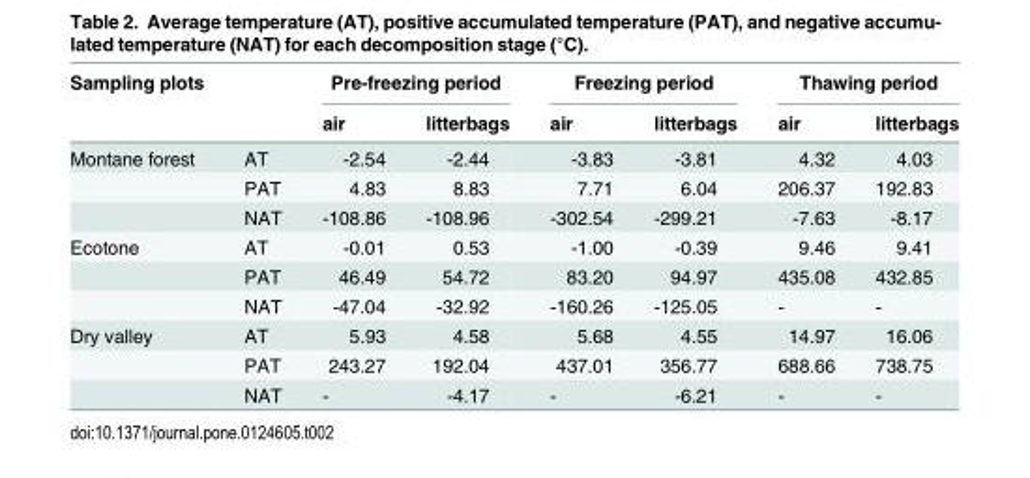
<table><thead><tr><td rowspan="2">Sampling plots</td><td rowspan="2"></td><td colspan="2">Pre-freezing period</td><td colspan="2">Freezing period</td><td colspan="2">Thawing period</td></tr><tr><td>air</td><td>litterbags</td><td>air</td><td>litterbags</td><td>air</td><td>litterbags</td></tr></thead><tbody><tr><td rowspan="3">Montane forest</td><td>AT</td><td>-2.54</td><td>-2.44</td><td>-3.83</td><td>-3.81</td><td>4.32</td><td>4.03</td></tr><tr><td>PAT</td><td>4.83</td><td>8.83</td><td>7.71</td><td>6.04</td><td>206.37</td><td>192.83</td></tr><tr><td>NAT</td><td>-108.86</td><td>-108.96</td><td>-302.54</td><td>-299.21</td><td>-7.63</td><td>-8.17</td></tr><tr><td rowspan="3">Ecotone</td><td>AT</td><td>-0.01</td><td>0.53</td><td>-1.00</td><td>-0.39</td><td>9.46</td><td>9.41</td></tr><tr><td>PAT</td><td>46.49</td><td>54.72</td><td>83.20</td><td>94.97</td><td>435.08</td><td>432.85</td></tr><tr><td>NAT</td><td>-47.04</td><td>-32.92</td><td>-160.26</td><td>-125.05</td><td>-</td><td>-</td></tr><tr><td rowspan="3">Dry valley</td><td>AT</td><td>5.93</td><td>4.58</td><td>5.68</td><td>4.55</td><td>14.97</td><td>16.06</td></tr><tr><td>PAT</td><td>243.27</td><td>192.04</td><td>437.01</td><td>356.77</td><td>688.66</td><td>738.75</td></tr><tr><td>NAT</td><td>-</td><td>-4.17</td><td>-</td><td>-6.21</td><td>-</td><td>-</td></tr></tbody></table>